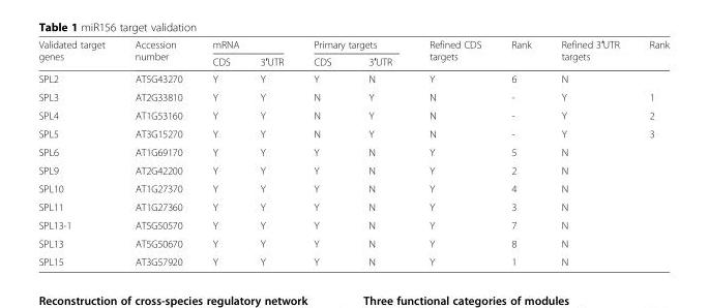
<table><thead><tr><td rowspan="2">Validated target genes</td><td rowspan="2">Accession number</td><td colspan="2">mRNA</td><td colspan="2">Primary targets</td><td rowspan="2">Refined CDS targets</td><td rowspan="2">Rank</td><td rowspan="2">Refined 3′UTR targets</td><td rowspan="2">Rank</td></tr><tr><td>CDS</td><td>3′UTR</td><td>CDS</td><td>3′UTR</td></tr></thead><tbody><tr><td>SPL2</td><td>AT5G43270</td><td>Y</td><td>Y</td><td>Y</td><td>N</td><td>Y</td><td>6</td><td>N</td><td></td></tr><tr><td>SPL3</td><td>AT2G33810</td><td>Y</td><td>Y</td><td>N</td><td>Y</td><td>N</td><td>-</td><td>Y</td><td>1</td></tr><tr><td>SPL4</td><td>AT1G53160</td><td>Y</td><td>Y</td><td>N</td><td>Y</td><td>N</td><td>-</td><td>Y</td><td>2</td></tr><tr><td>SPL5</td><td>AT3G15270</td><td>Y</td><td>Y</td><td>N</td><td>Y</td><td>N</td><td>-</td><td>Y</td><td>3</td></tr><tr><td>SPL6</td><td>AT1G69170</td><td>Y</td><td>Y</td><td>Y</td><td>N</td><td>Y</td><td>5</td><td>N</td><td></td></tr><tr><td>SPL9</td><td>AT2G42200</td><td>Y</td><td>Y</td><td>Y</td><td>N</td><td>Y</td><td>2</td><td>N</td><td></td></tr><tr><td>SPL10</td><td>AT1G27370</td><td>Y</td><td>Y</td><td>Y</td><td>N</td><td>Y</td><td>4</td><td>N</td><td></td></tr><tr><td>SPL11</td><td>AT1G27360</td><td>Y</td><td>Y</td><td>Y</td><td>N</td><td>Y</td><td>3</td><td>N</td><td></td></tr><tr><td>SPL13-1</td><td>AT5G50570</td><td>Y</td><td>Y</td><td>Y</td><td>N</td><td>Y</td><td>7</td><td>N</td><td></td></tr><tr><td>SPL13</td><td>AT5G50670</td><td>Y</td><td>Y</td><td>Y</td><td>N</td><td>Y</td><td>8</td><td>N</td><td></td></tr><tr><td>SPL15</td><td>AT3G57920</td><td>Y</td><td>Y</td><td>Y</td><td>N</td><td>Y</td><td>1</td><td>N</td><td></td></tr></tbody></table>